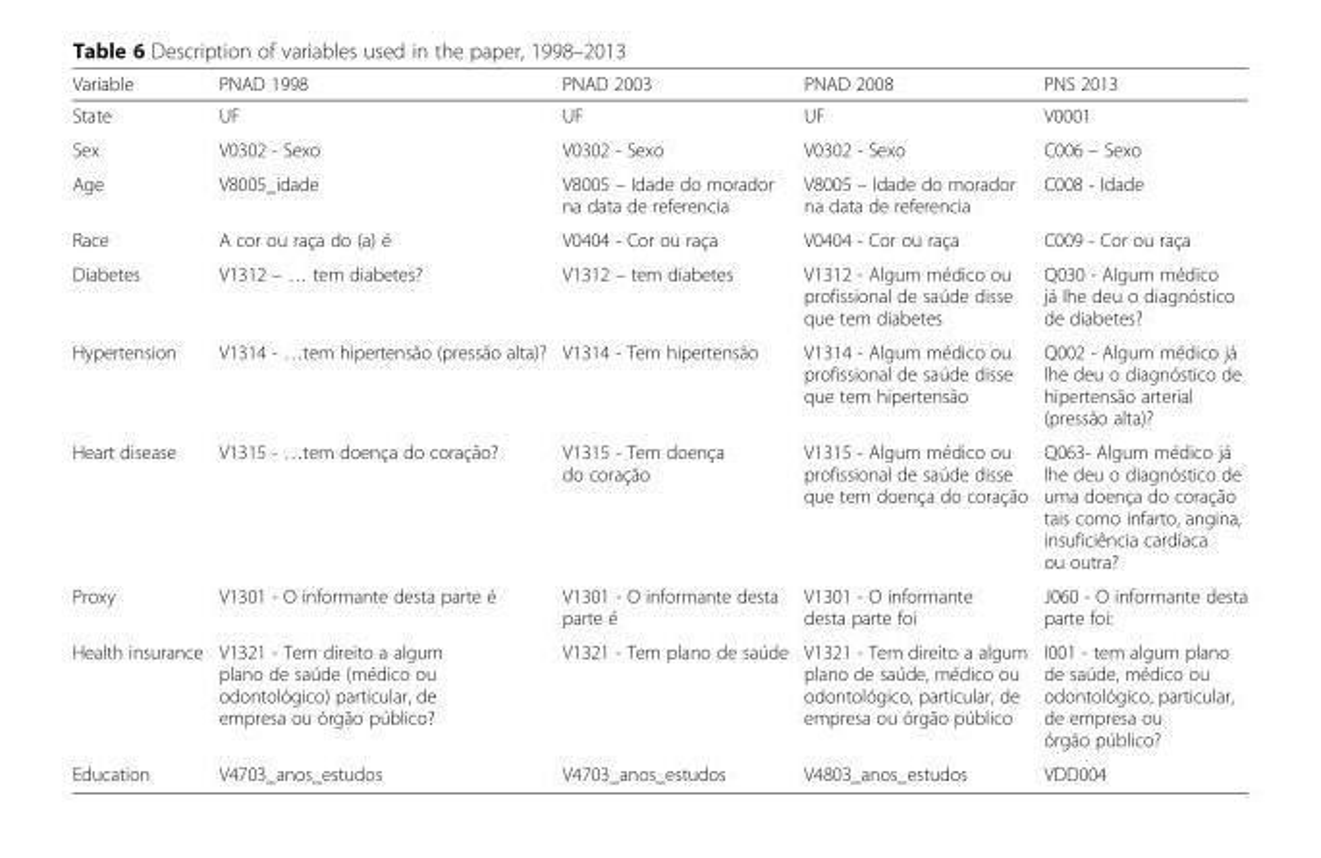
<table><thead><tr><td>Variable</td><td>PNAD 1998</td><td>PNAD 2003</td><td>PNAD 2008</td><td>PNS 2013</td></tr></thead><tbody><tr><td>State</td><td>UF</td><td>UF</td><td>UF</td><td>V0001</td></tr><tr><td>Sex</td><td>V0302 - Sexo</td><td>V0302 - Sexo</td><td>V0302 - Sexo</td><td>C006 – Sexo</td></tr><tr><td>Age</td><td>V8005_idade</td><td>V8005 – Idade do morador na data de referencia</td><td>V8005 – Idade do morador na data de referencia</td><td>C008 - Idade</td></tr><tr><td>Race</td><td>A cor ou raça do (a) é</td><td>V0404 - Cor ou raça</td><td>V0404 - Cor ou raça</td><td>C009 - Cor ou raça</td></tr><tr><td>Diabetes</td><td>V1312 – … tem diabetes?</td><td>V1312 – tem diabetes</td><td>V1312 - Algum médico ou profissional de saúde disse que tem diabetes</td><td>Q030 - Algum médico já lhe deu o diagnóstico de diabetes?</td></tr><tr><td>Hypertension</td><td>V1314 - …tem hipertensão (pressão alta)?</td><td>V1314 - Tem hipertensão</td><td>V1314 - Algum médico ou profissional de saúde disse que tem hipertensão</td><td>Q002 - Algum médico já lhe deu o diagnóstico de hipertensão arterial (pressão alta)?</td></tr><tr><td>Heart disease</td><td>V1315 - …tem doença do coração?</td><td>V1315 - Tem doença do coração</td><td>V1315 - Algum médico ou profissional de saúde disse que tem doença do coração</td><td>Q063- Algum médico já lhe deu o diagnóstico de uma doença do coração tais como infarto, angina, insuficiência cardíaca ou outra?</td></tr><tr><td>Proxy</td><td>V1301 - O informante desta parte é</td><td>V1301 - O informante desta parte é</td><td>V1301 - O informante desta parte foi</td><td>J060 - O informante desta parte foi:</td></tr><tr><td>Health insurance</td><td>V1321 - Tem direito a algum plano de saúde (médico ou odontológico) particular, de empresa ou órgão público?</td><td>V1321 - Tem plano de saúde</td><td>V1321 - Tem direito a algum plano de saúde, médico ou odontológico, particular, de empresa ou órgão público</td><td>I001 - tem algum plano de saúde, médico ou odontológico, particular, de empresa ou órgão público?</td></tr><tr><td>Education</td><td>V4703_anos_estudos</td><td>V4703_anos_estudos</td><td>V4803_anos_estudos</td><td>VDD004</td></tr></tbody></table>